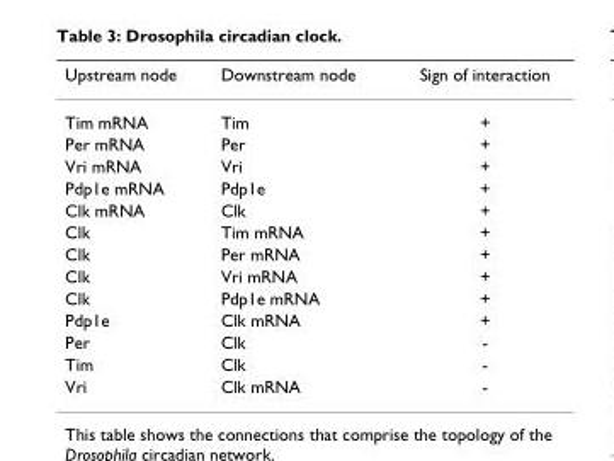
<table><thead><tr><td>Upstream node</td><td>Downstream node</td><td>Sign of interaction</td></tr></thead><tbody><tr><td>Tim mRNA</td><td>Tim</td><td>+</td></tr><tr><td>Per mRNA</td><td>Per</td><td>+</td></tr><tr><td>Vri mRNA</td><td>Vri</td><td>+</td></tr><tr><td>Pdp1e mRNA</td><td>Pdp1e</td><td>+</td></tr><tr><td>Clk mRNA</td><td>Clk</td><td>+</td></tr><tr><td>Clk</td><td>Tim mRNA</td><td>+</td></tr><tr><td>Clk</td><td>Per mRNA</td><td>+</td></tr><tr><td>Clk</td><td>Vri mRNA</td><td>+</td></tr><tr><td>Clk</td><td>Pdp1e mRNA</td><td>+</td></tr><tr><td>Pdp1e</td><td>Clk mRNA</td><td>+</td></tr><tr><td>Per</td><td>Clk</td><td>-</td></tr><tr><td>Tim</td><td>Clk</td><td>-</td></tr><tr><td>Vri</td><td>Clk mRNA</td><td>-</td></tr></tbody></table>